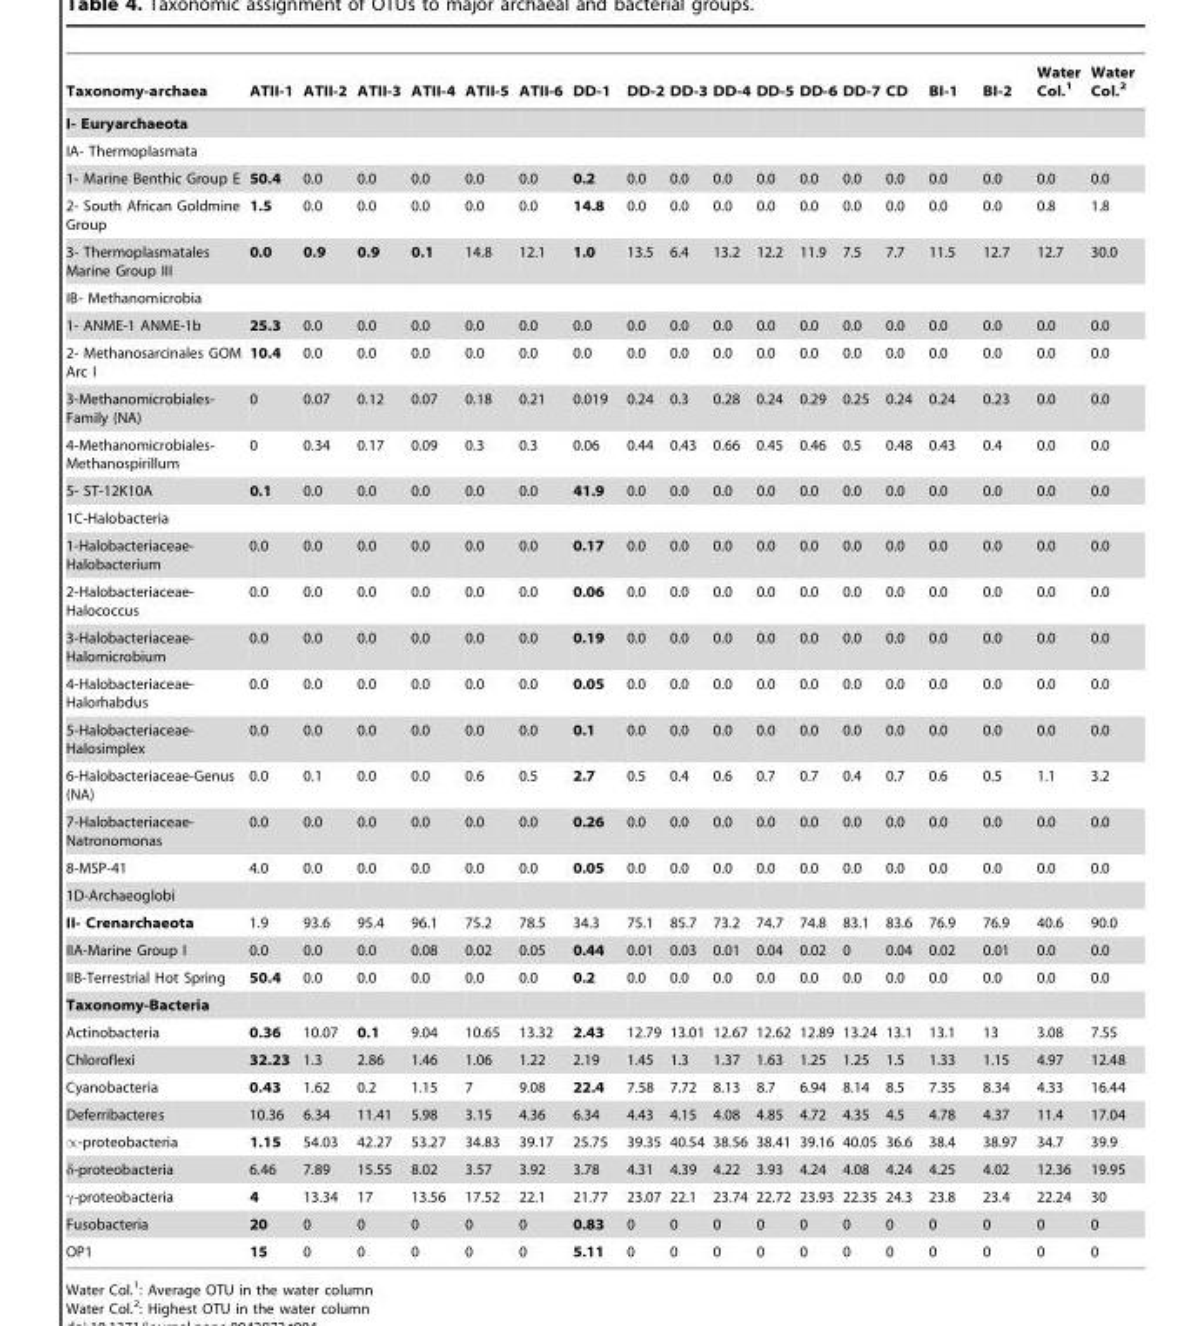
<table><thead><tr><td>Taxonomy-archaea</td><td>ATII-1</td><td>ATII-2</td><td>ATII-3</td><td>ATII-4</td><td>ATII-5</td><td>ATII-6</td><td>DD-1</td><td>DD-2</td><td>DD-3</td><td>DD-4</td><td>DD-5</td><td>DD-6</td><td>DD-7</td><td>CD</td><td>BI-1</td><td>BI-2</td><td>Water Col.<sup>1</sup></td><td>Water Col.<sup>2</sup></td></tr></thead><tbody><tr><td colspan="19">I- Euryarchaeota</td></tr><tr><td colspan="19">IA- Thermoplasmata</td></tr><tr><td>1- Marine Benthic Group E</td><td>50.4</td><td>0.0</td><td>0.0</td><td>0.0</td><td>0.0</td><td>0.0</td><td>0.2</td><td>0.0</td><td>0.0</td><td>0.0</td><td>0.0</td><td>0.0</td><td>0.0</td><td>0.0</td><td>0.0</td><td>0.0</td><td>0.0</td><td>0.0</td></tr><tr><td>2- South African Goldmine Group</td><td>1.5</td><td>0.0</td><td>0.0</td><td>0.0</td><td>0.0</td><td>0.0</td><td>14.8</td><td>0.0</td><td>0.0</td><td>0.0</td><td>0.0</td><td>0.0</td><td>0.0</td><td>0.0</td><td>0.0</td><td>0.0</td><td>0.8</td><td>1.8</td></tr><tr><td>3- Thermoplasmatales Marine Group III</td><td>0.0</td><td>0.9</td><td>0.9</td><td>0.1</td><td>14.8</td><td>12.1</td><td>1.0</td><td>13.5</td><td>6.4</td><td>13.2</td><td>12.2</td><td>11.9</td><td>7.5</td><td>7.7</td><td>11.5</td><td>12.7</td><td>12.7</td><td>30.0</td></tr><tr><td colspan="19">IB- Methanomicrobia</td></tr><tr><td>1- ANME-1 ANME-1b</td><td>25.3</td><td>0.0</td><td>0.0</td><td>0.0</td><td>0.0</td><td>0.0</td><td>0.0</td><td>0.0</td><td>0.0</td><td>0.0</td><td>0.0</td><td>0.0</td><td>0.0</td><td>0.0</td><td>0.0</td><td>0.0</td><td>0.0</td><td>0.0</td></tr><tr><td>2- Methanosarcinales GOM Arc I</td><td>10.4</td><td>0.0</td><td>0.0</td><td>0.0</td><td>0.0</td><td>0.0</td><td>0.0</td><td>0.0</td><td>0.0</td><td>0.0</td><td>0.0</td><td>0.0</td><td>0.0</td><td>0.0</td><td>0.0</td><td>0.0</td><td>0.0</td><td>0.0</td></tr><tr><td>3-Methanomicrobiales- Family (NA)</td><td>0</td><td>0.07</td><td>0.12</td><td>0.07</td><td>0.18</td><td>0.21</td><td>0.019</td><td>0.24</td><td>0.3</td><td>0.28</td><td>0.24</td><td>0.29</td><td>0.25</td><td>0.24</td><td>0.24</td><td>0.23</td><td>0.0</td><td>0.0</td></tr><tr><td>4-Methanomicrobiales- Methanospirillum</td><td>0</td><td>0.34</td><td>0.17</td><td>0.09</td><td>0.3</td><td>0.3</td><td>0.06</td><td>0.44</td><td>0.43</td><td>0.66</td><td>0.45</td><td>0.46</td><td>0.5</td><td>0.48</td><td>0.43</td><td>0.4</td><td>0.0</td><td>0.0</td></tr><tr><td>5- ST-12K10A</td><td>0.1</td><td>0.0</td><td>0.0</td><td>0.0</td><td>0.0</td><td>0.0</td><td>41.9</td><td>0.0</td><td>0.0</td><td>0.0</td><td>0.0</td><td>0.0</td><td>0.0</td><td>0.0</td><td>0.0</td><td>0.0</td><td>0.0</td><td>0.0</td></tr><tr><td colspan="19">1C-Halobacteria</td></tr><tr><td>1-Halobacteriaceae- Halobacterium</td><td>0.0</td><td>0.0</td><td>0.0</td><td>0.0</td><td>0.0</td><td>0.0</td><td>0.17</td><td>0.0</td><td>0.0</td><td>0.0</td><td>0.0</td><td>0.0</td><td>0.0</td><td>0.0</td><td>0.0</td><td>0.0</td><td>0.0</td><td>0.0</td></tr><tr><td>2-Halobacteriaceae- Halococcus</td><td>0.0</td><td>0.0</td><td>0.0</td><td>0.0</td><td>0.0</td><td>0.0</td><td>0.06</td><td>0.0</td><td>0.0</td><td>0.0</td><td>0.0</td><td>0.0</td><td>0.0</td><td>0.0</td><td>0.0</td><td>0.0</td><td>0.0</td><td>0.0</td></tr><tr><td>3-Halobacteriaceae- Halomicrobium</td><td>0.0</td><td>0.0</td><td>0.0</td><td>0.0</td><td>0.0</td><td>0.0</td><td>0.19</td><td>0.0</td><td>0.0</td><td>0.0</td><td>0.0</td><td>0.0</td><td>0.0</td><td>0.0</td><td>0.0</td><td>0.0</td><td>0.0</td><td>0.0</td></tr><tr><td>4-Halobacteriaceae- Halorhabdus</td><td>0.0</td><td>0.0</td><td>0.0</td><td>0.0</td><td>0.0</td><td>0.0</td><td>0.05</td><td>0.0</td><td>0.0</td><td>0.0</td><td>0.0</td><td>0.0</td><td>0.0</td><td>0.0</td><td>0.0</td><td>0.0</td><td>0.0</td><td>0.0</td></tr><tr><td>5-Halobacteriaceae- Halosimplex</td><td>0.0</td><td>0.0</td><td>0.0</td><td>0.0</td><td>0.0</td><td>0.0</td><td>0.1</td><td>0.0</td><td>0.0</td><td>0.0</td><td>0.0</td><td>0.0</td><td>0.0</td><td>0.0</td><td>0.0</td><td>0.0</td><td>0.0</td><td>0.0</td></tr><tr><td>6-Halobacteriaceae-Genus (NA)</td><td>0.0</td><td>0.1</td><td>0.0</td><td>0.0</td><td>0.6</td><td>0.5</td><td>2.7</td><td>0.5</td><td>0.4</td><td>0.6</td><td>0.7</td><td>0.7</td><td>0.4</td><td>0.7</td><td>0.6</td><td>0.5</td><td>1.1</td><td>3.2</td></tr><tr><td>7-Halobacteriaceae- Natronomonas</td><td>0.0</td><td>0.0</td><td>0.0</td><td>0.0</td><td>0.0</td><td>0.0</td><td>0.26</td><td>0.0</td><td>0.0</td><td>0.0</td><td>0.0</td><td>0.0</td><td>0.0</td><td>0.0</td><td>0.0</td><td>0.0</td><td>0.0</td><td>0.0</td></tr><tr><td>8-MSP-41</td><td>4.0</td><td>0.0</td><td>0.0</td><td>0.0</td><td>0.0</td><td>0.0</td><td>0.05</td><td>0.0</td><td>0.0</td><td>0.0</td><td>0.0</td><td>0.0</td><td>0.0</td><td>0.0</td><td>0.0</td><td>0.0</td><td>0.0</td><td>0.0</td></tr><tr><td colspan="19">1D-Archaeoglobi</td></tr><tr><td>II- Crenarchaeota</td><td>1.9</td><td>93.6</td><td>95.4</td><td>96.1</td><td>75.2</td><td>78.5</td><td>34.3</td><td>75.1</td><td>85.7</td><td>73.2</td><td>74.7</td><td>74.8</td><td>83.1</td><td>83.6</td><td>76.9</td><td>76.9</td><td>40.6</td><td>90.0</td></tr><tr><td>IIA-Marine Group I</td><td>0.0</td><td>0.0</td><td>0.0</td><td>0.08</td><td>0.02</td><td>0.05</td><td>0.44</td><td>0.01</td><td>0.03</td><td>0.01</td><td>0.04</td><td>0.02</td><td>0</td><td>0.04</td><td>0.02</td><td>0.01</td><td>0.0</td><td>0.0</td></tr><tr><td>IIB-Terrestrial Hot Spring</td><td>50.4</td><td>0.0</td><td>0.0</td><td>0.0</td><td>0.0</td><td>0.0</td><td>0.2</td><td>0.0</td><td>0.0</td><td>0.0</td><td>0.0</td><td>0.0</td><td>0.0</td><td>0.0</td><td>0.0</td><td>0.0</td><td>0.0</td><td>0.0</td></tr><tr><td colspan="19">Taxonomy-Bacteria</td></tr><tr><td>Actinobacteria</td><td>0.36</td><td>10.07</td><td>0.1</td><td>9.04</td><td>10.65</td><td>13.32</td><td>2.43</td><td>12.79</td><td>13.01</td><td>12.67</td><td>12.62</td><td>12.89</td><td>13.24</td><td>13.1</td><td>13.1</td><td>13</td><td>3.08</td><td>7.55</td></tr><tr><td>Chloroflexi</td><td>32.23</td><td>1.3</td><td>2.86</td><td>1.46</td><td>1.06</td><td>1.22</td><td>2.19</td><td>1.45</td><td>1.3</td><td>1.37</td><td>1.63</td><td>1.25</td><td>1.25</td><td>1.5</td><td>1.33</td><td>1.15</td><td>4.97</td><td>12.48</td></tr><tr><td>Cyanobacteria</td><td>0.43</td><td>1.62</td><td>0.2</td><td>1.15</td><td>7</td><td>9.08</td><td>22.4</td><td>7.58</td><td>7.72</td><td>8.13</td><td>8.7</td><td>6.94</td><td>8.14</td><td>8.5</td><td>7.35</td><td>8.34</td><td>4.33</td><td>16.44</td></tr><tr><td>Deferribacteres</td><td>10.36</td><td>6.34</td><td>11.41</td><td>5.98</td><td>3.15</td><td>4.36</td><td>6.34</td><td>4.43</td><td>4.15</td><td>4.08</td><td>4.85</td><td>4.72</td><td>4.35</td><td>4.5</td><td>4.78</td><td>4.37</td><td>11.4</td><td>17.04</td></tr><tr><td>∝-proteobacteria</td><td>1.15</td><td>54.03</td><td>42.27</td><td>53.27</td><td>34.83</td><td>39.17</td><td>25.75</td><td>39.35</td><td>40.54</td><td>38.56</td><td>38.41</td><td>39.16</td><td>40.05</td><td>36.6</td><td>38.4</td><td>38.97</td><td>34.7</td><td>39.9</td></tr><tr><td>δ-proteobacteria</td><td>6.46</td><td>7.89</td><td>15.55</td><td>8.02</td><td>3.57</td><td>3.92</td><td>3.78</td><td>4.31</td><td>4.39</td><td>4.22</td><td>3.93</td><td>4.24</td><td>4.08</td><td>4.24</td><td>4.25</td><td>4.02</td><td>12.36</td><td>19.95</td></tr><tr><td>γ-proteobacteria</td><td>4</td><td>13.34</td><td>17</td><td>13.56</td><td>17.52</td><td>22.1</td><td>21.77</td><td>23.07</td><td>22.1</td><td>23.74</td><td>22.72</td><td>23.93</td><td>22.35</td><td>24.3</td><td>23.8</td><td>23.4</td><td>22.24</td><td>30</td></tr><tr><td>Fusobacteria</td><td>20</td><td>0</td><td>0</td><td>0</td><td>0</td><td>0</td><td>0.83</td><td>0</td><td>0</td><td>0</td><td>0</td><td>0</td><td>0</td><td>0</td><td>0</td><td>0</td><td>0</td><td>0</td></tr><tr><td>OP1</td><td>15</td><td>0</td><td>0</td><td>0</td><td>0</td><td>0</td><td>5.11</td><td>0</td><td>0</td><td>0</td><td>0</td><td>0</td><td>0</td><td>0</td><td>0</td><td>0</td><td>0</td><td>0</td></tr></tbody></table>